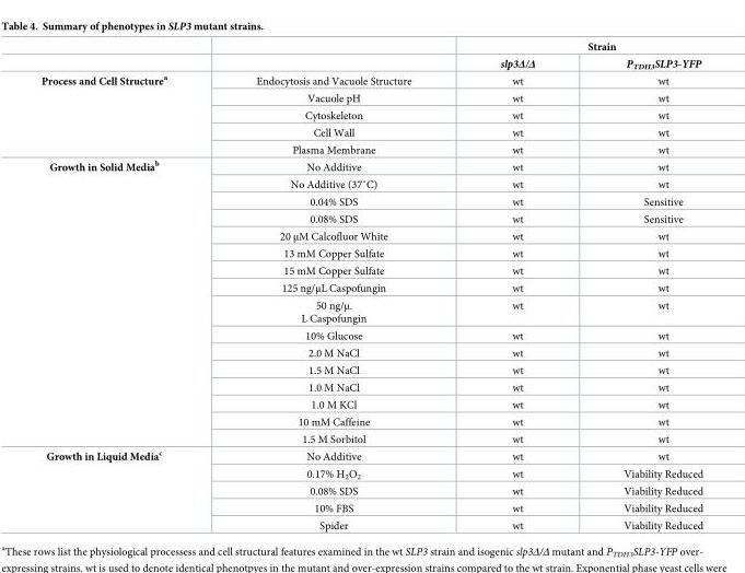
<table><thead><tr><td rowspan="2"></td><td rowspan="2"></td><td colspan="2">Strain</td></tr><tr><td>slp3Δ/Δ</td><td>P<sub>TDH3</sub>SLP3-YFP</td></tr></thead><tbody><tr><td rowspan="5">Process and Cell Structure<sup>a</sup></td><td>Endocytosis and Vacuole Structure</td><td>wt</td><td>wt</td></tr><tr><td>Vacuole pH</td><td>wt</td><td>wt</td></tr><tr><td>Cytoskeleton</td><td>wt</td><td>wt</td></tr><tr><td>Cell Wall</td><td>wt</td><td>wt</td></tr><tr><td>Plasma Membrane</td><td>wt</td><td>wt</td></tr><tr><td rowspan="16">Growth in Solid Media<sup>b</sup></td><td>No Additive</td><td>wt</td><td>wt</td></tr><tr><td>No Additive (37˚C)</td><td>wt</td><td>wt</td></tr><tr><td>0.04% SDS</td><td>wt</td><td>Sensitive</td></tr><tr><td>0.08% SDS</td><td>wt</td><td>Sensitive</td></tr><tr><td>20 μM Calcofluor White</td><td>wt</td><td>wt</td></tr><tr><td>13 mM Copper Sulfate</td><td>wt</td><td>wt</td></tr><tr><td>15 mM Copper Sulfate</td><td>wt</td><td>wt</td></tr><tr><td>125 ng/μL Caspofungin</td><td>wt</td><td>wt</td></tr><tr><td>50 ng/μ. L Caspofungin</td><td>wt</td><td>wt</td></tr><tr><td>10% Glucose</td><td>wt</td><td>wt</td></tr><tr><td>2.0 M NaCl</td><td>wt</td><td>wt</td></tr><tr><td>1.5 M NaCl</td><td>wt</td><td>wt</td></tr><tr><td>1.0 M NaCl</td><td>wt</td><td>wt</td></tr><tr><td>1.0 M KCl</td><td>wt</td><td>wt</td></tr><tr><td>10 mM Caffeine</td><td>wt</td><td>wt</td></tr><tr><td>1.5 M Sorbitol</td><td>wt</td><td>wt</td></tr><tr><td rowspan="5">Growth in Liquid Media<sup>c</sup></td><td>No Additive</td><td>wt</td><td>wt</td></tr><tr><td>0.17% H<sub>2</sub>O<sub>2</sub></td><td>wt</td><td>Viability Reduced</td></tr><tr><td>0.08% SDS</td><td>wt</td><td>Viability Reduced</td></tr><tr><td>10% FBS</td><td>wt</td><td>Viability Reduced</td></tr><tr><td>Spider</td><td>wt</td><td>Viability Reduced</td></tr></tbody></table>